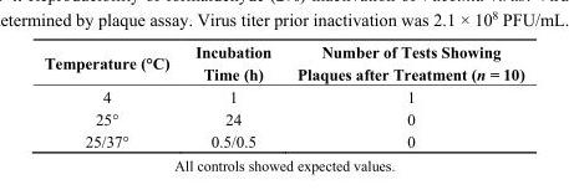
<table><thead><tr><td>Temperature (°C)</td><td>Incubation Time (h)</td><td>Number of Tests Showing Plaques after Treatment (n = 10)</td></tr></thead><tbody><tr><td>4</td><td>1</td><td>1</td></tr><tr><td>25°</td><td>24</td><td>0</td></tr><tr><td>25/37°</td><td>0.5/0.5</td><td>0</td></tr></tbody></table>